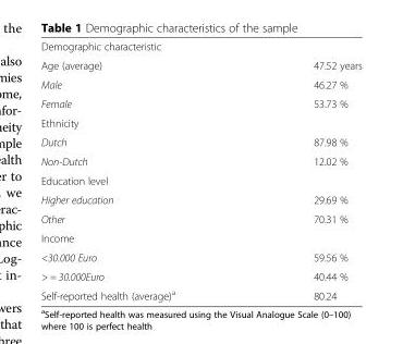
<table><tbody><tr><td colspan="2">Demographic characteristic</td></tr><tr><td>Age (average)</td><td>47.52 years</td></tr><tr><td>Male</td><td>46.27 %</td></tr><tr><td>Female</td><td>53.73 %</td></tr><tr><td colspan="2">Ethnicity</td></tr><tr><td>Dutch</td><td>87.98 %</td></tr><tr><td>Non-Dutch</td><td>12.02 %</td></tr><tr><td colspan="2">Education level</td></tr><tr><td>Higher education</td><td>29.69 %</td></tr><tr><td>Other</td><td>70.31 %</td></tr><tr><td colspan="2">Income</td></tr><tr><td>&lt;30.000 Euro</td><td>59.56 %</td></tr><tr><td>&gt; = 30.000Euro</td><td>40.44 %</td></tr><tr><td>Self-reported health (average)<sup>a</sup></td><td>80.24</td></tr></tbody></table>